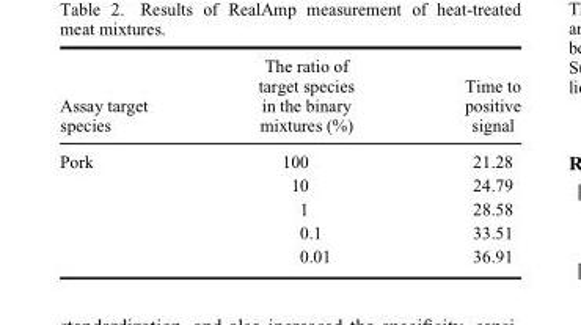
<table><thead><tr><td>Assay target species</td><td>The ratio of target species in the binary mixtures (%)</td><td>Time to positive signal</td></tr></thead><tbody><tr><td rowspan="5">Pork</td><td>100</td><td>21.28</td></tr><tr><td>10</td><td>24.79</td></tr><tr><td>1</td><td>28.58</td></tr><tr><td>0.1</td><td>33.51</td></tr><tr><td>0.01</td><td>36.91</td></tr></tbody></table>